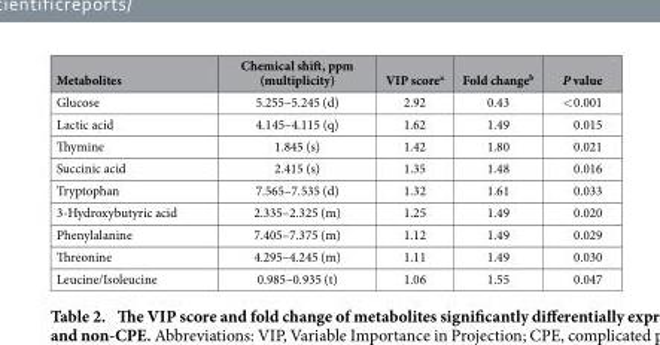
<table><thead><tr><td>Metabolites</td><td>Chemical shift, ppm (multiplicity)</td><td>VIP score<sup>a</sup></td><td>Fold change<sup>b</sup></td><td>P value</td></tr></thead><tbody><tr><td>Glucose</td><td>5.255–5.245 (d)</td><td>2.92</td><td>0.43</td><td>&lt; 0.001</td></tr><tr><td>Lactic acid</td><td>4.145–4.115 (q)</td><td>1.62</td><td>1.49</td><td>0.015</td></tr><tr><td>Thymine</td><td>1.845 (s)</td><td>1.42</td><td>1.80</td><td>0.021</td></tr><tr><td>Succinic acid</td><td>2.415 (s)</td><td>1.35</td><td>1.48</td><td>0.016</td></tr><tr><td>Tryptophan</td><td>7.565–7.535 (d)</td><td>1.32</td><td>1.61</td><td>0.033</td></tr><tr><td>3-Hydroxybutyric acid</td><td>2.335–2.325 (m)</td><td>1.25</td><td>1.49</td><td>0.020</td></tr><tr><td>Phenylalanine</td><td>7.405–7.375 (m)</td><td>1.12</td><td>1.49</td><td>0.029</td></tr><tr><td>Threonine</td><td>4.295–4.245 (m)</td><td>1.11</td><td>1.49</td><td>0.030</td></tr><tr><td>Leucine/Isoleucine</td><td>0.985–0.935 (t)</td><td>1.06</td><td>1.55</td><td>0.047</td></tr></tbody></table>